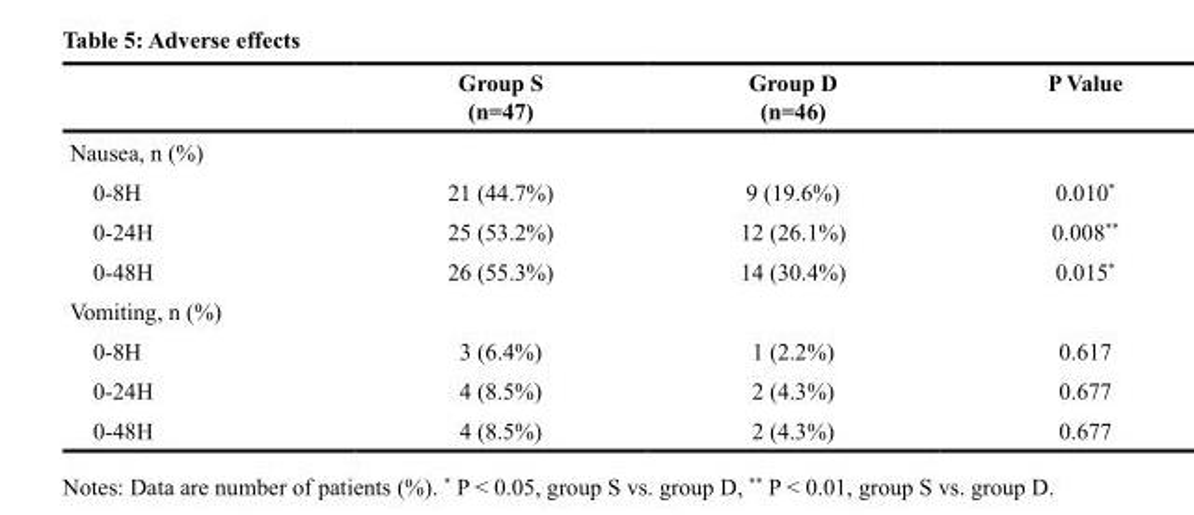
<table><thead><tr><td></td><td>Group S (n=47)</td><td>Group D (n=46)</td><td>P Value</td></tr></thead><tbody><tr><td colspan="4">Nausea, n (%)</td></tr><tr><td>0-8H</td><td>21 (44.7%)</td><td>9 (19.6%)</td><td>0.010*</td></tr><tr><td>0-24H</td><td>25 (53.2%)</td><td>12 (26.1%)</td><td>0.008**</td></tr><tr><td>0-48H</td><td>26 (55.3%)</td><td>14 (30.4%)</td><td>0.015*</td></tr><tr><td colspan="4">Vomiting, n (%)</td></tr><tr><td>0-8H</td><td>3 (6.4%)</td><td>1 (2.2%)</td><td>0.617</td></tr><tr><td>0-24H</td><td>4 (8.5%)</td><td>2 (4.3%)</td><td>0.677</td></tr><tr><td>0-48H</td><td>4 (8.5%)</td><td>2 (4.3%)</td><td>0.677</td></tr></tbody></table>